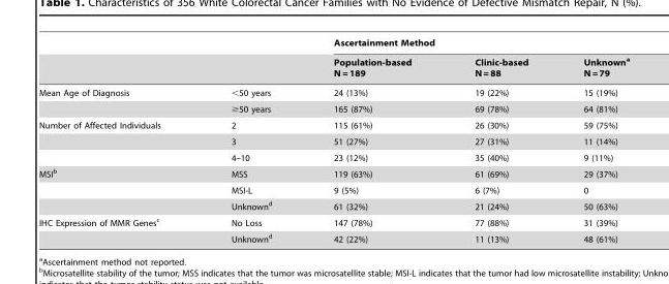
<table><thead><tr><td rowspan="2"></td><td rowspan="2"></td><td colspan="3">Ascertainment Method</td></tr><tr><td>Population-based N = 189</td><td>Clinic-based N = 88</td><td>Unknown<sup>a</sup> N = 79</td></tr></thead><tbody><tr><td rowspan="2">Mean Age of Diagnosis</td><td>&lt;50 years</td><td>24 (13%)</td><td>19 (22%)</td><td>15 (19%)</td></tr><tr><td>≥50 years</td><td>165 (87%)</td><td>69 (78%)</td><td>64 (81%)</td></tr><tr><td rowspan="3">Number of Affected Individuals</td><td>2</td><td>115 (61%)</td><td>26 (30%)</td><td>59 (75%)</td></tr><tr><td>3</td><td>51 (27%)</td><td>27 (31%)</td><td>11 (14%)</td></tr><tr><td>4–10</td><td>23 (12%)</td><td>35 (40%)</td><td>9 (11%)</td></tr><tr><td rowspan="3">MSI<sup>b</sup></td><td>MSS</td><td>119 (63%)</td><td>61 (69%)</td><td>29 (37%)</td></tr><tr><td>MSI-L</td><td>9 (5%)</td><td>6 (7%)</td><td>0</td></tr><tr><td>Unknown<sup>d</sup></td><td>61 (32%)</td><td>21 (24%)</td><td>50 (63%)</td></tr><tr><td rowspan="2">IHC Expression of MMR Genes<sup>c</sup></td><td>No Loss</td><td>147 (78%)</td><td>77 (88%)</td><td>31 (39%)</td></tr><tr><td>Unknown<sup>d</sup></td><td>42 (22%)</td><td>11 (13%)</td><td>48 (61%)</td></tr></tbody></table>